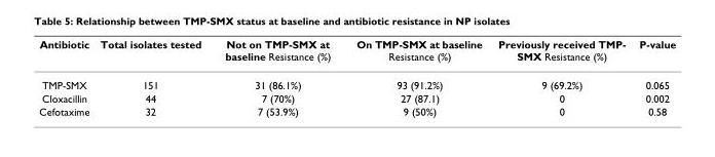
<table><thead><tr><td>Antibiotic</td><td>Total isolates tested</td><td>Not on TMP-SMX at baseline Resistance (%)</td><td>On TMP-SMX at baseline Resistance (%)</td><td>Previously received TMP- SMX Resistance (%)</td><td>P-value</td></tr></thead><tbody><tr><td>TMP-SMX</td><td>151</td><td>31 (86.1%)</td><td>93 (91.2%)</td><td>9 (69.2%)</td><td>0.065</td></tr><tr><td>Cloxacillin</td><td>44</td><td>7 (70%)</td><td>27 (87.1)</td><td>0</td><td>0.002</td></tr><tr><td>Cefotaxime</td><td>32</td><td>7 (53.9%)</td><td>9 (50%)</td><td>0</td><td>0.58</td></tr></tbody></table>